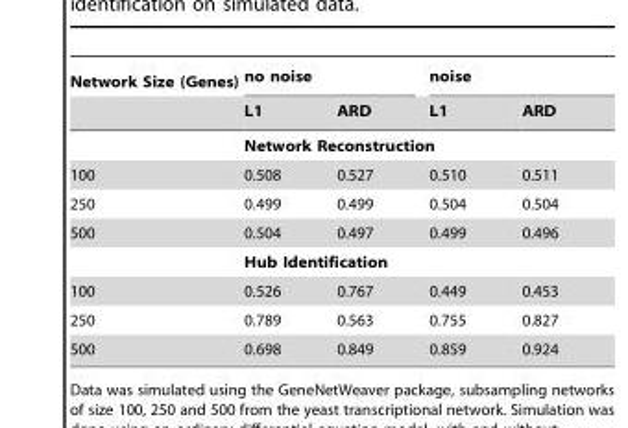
<table><thead><tr><td rowspan="2">Network Size (Genes)</td><td colspan="2">no noise</td><td colspan="2">noise</td></tr><tr><td>L1</td><td>ARD</td><td>L1</td><td>ARD</td></tr></thead><tbody><tr><td></td><td colspan="4">Network Reconstruction</td></tr><tr><td>100</td><td>0.508</td><td>0.527</td><td>0.510</td><td>0.511</td></tr><tr><td>250</td><td>0.499</td><td>0.499</td><td>0.504</td><td>0.504</td></tr><tr><td rowspan="2">500</td><td>0.504</td><td>0.497</td><td>0.499</td><td>0.496</td></tr><tr><td colspan="4">Hub Identification</td></tr><tr><td>100</td><td>0.526</td><td>0.767</td><td>0.449</td><td>0.453</td></tr><tr><td>250</td><td>0.789</td><td>0.563</td><td>0.755</td><td>0.827</td></tr><tr><td>500</td><td>0.698</td><td>0.849</td><td>0.859</td><td>0.924</td></tr></tbody></table>